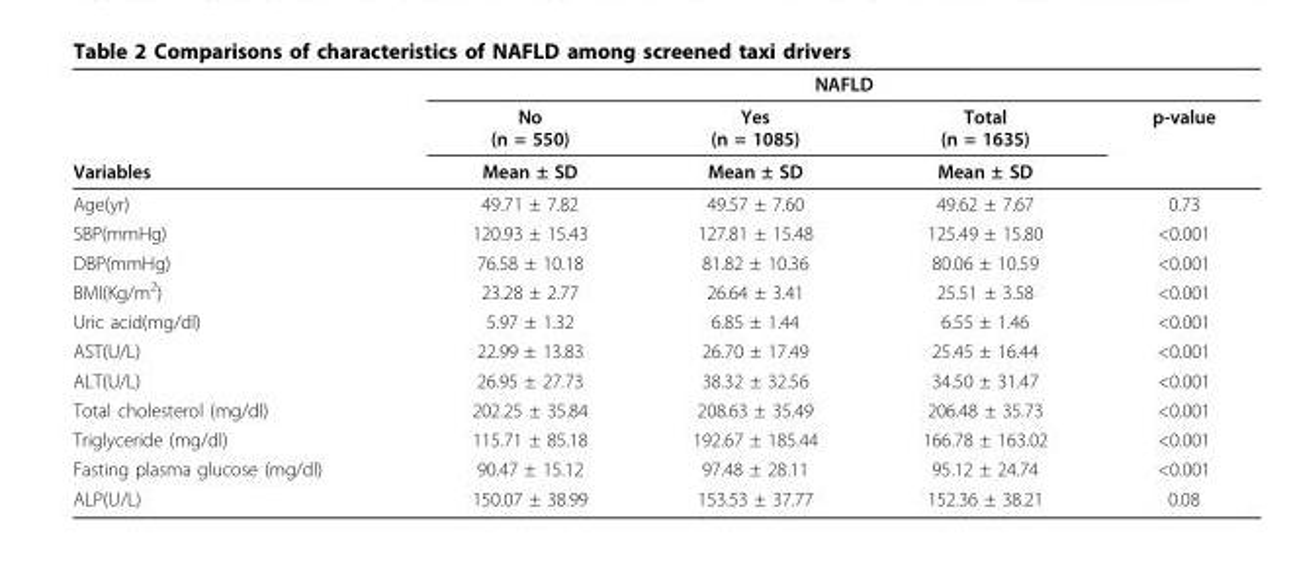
<table><thead><tr><td rowspan="3">Variables</td><td colspan="4">NAFLD</td></tr><tr><td rowspan="2">No (n = 550) Mean ± SD</td><td rowspan="2">Yes (n = 1085) Mean ± SD</td><td rowspan="2">Total (n = 1635) Mean ± SD</td><td rowspan="2">p-value</td></tr><tr></tr></thead><tbody><tr><td>Age(yr)</td><td>49.71 ± 7.82</td><td>49.57 ± 7.60</td><td>49.62 ± 7.67</td><td>0.73</td></tr><tr><td>SBP(mmHg)</td><td>120.93 ± 15.43</td><td>127.81 ± 15.48</td><td>125.49 ± 15.80</td><td>&lt;0.001</td></tr><tr><td>DBP(mmHg)</td><td>76.58 ± 10.18</td><td>81.82 ± 10.36</td><td>80.06 ± 10.59</td><td>&lt;0.001</td></tr><tr><td>BMI(Kg/m<sup>2</sup>)</td><td>23.28 ± 2.77</td><td>26.64 ± 3.41</td><td>25.51 ± 3.58</td><td>&lt;0.001</td></tr><tr><td>Uric acid(mg/dl)</td><td>5.97 ± 1.32</td><td>6.85 ± 1.44</td><td>6.55 ± 1.46</td><td>&lt;0.001</td></tr><tr><td>AST(U/L)</td><td>22.99 ± 13.83</td><td>26.70 ± 17.49</td><td>25.45 ± 16.44</td><td>&lt;0.001</td></tr><tr><td>ALT(U/L)</td><td>26.95 ± 27.73</td><td>38.32 ± 32.56</td><td>34.50 ± 31.47</td><td>&lt;0.001</td></tr><tr><td>Total cholesterol (mg/dl)</td><td>202.25 ± 35.84</td><td>208.63 ± 35.49</td><td>206.48 ± 35.73</td><td>&lt;0.001</td></tr><tr><td>Triglyceride (mg/dl)</td><td>115.71 ± 85.18</td><td>192.67 ± 185.44</td><td>166.78 ± 163.02</td><td>&lt;0.001</td></tr><tr><td>Fasting plasma glucose (mg/dl)</td><td>90.47 ± 15.12</td><td>97.48 ± 28.11</td><td>95.12 ± 24.74</td><td>&lt;0.001</td></tr><tr><td>ALP(U/L)</td><td>150.07 ± 38.99</td><td>153.53 ± 37.77</td><td>152.36 ± 38.21</td><td>0.08</td></tr></tbody></table>